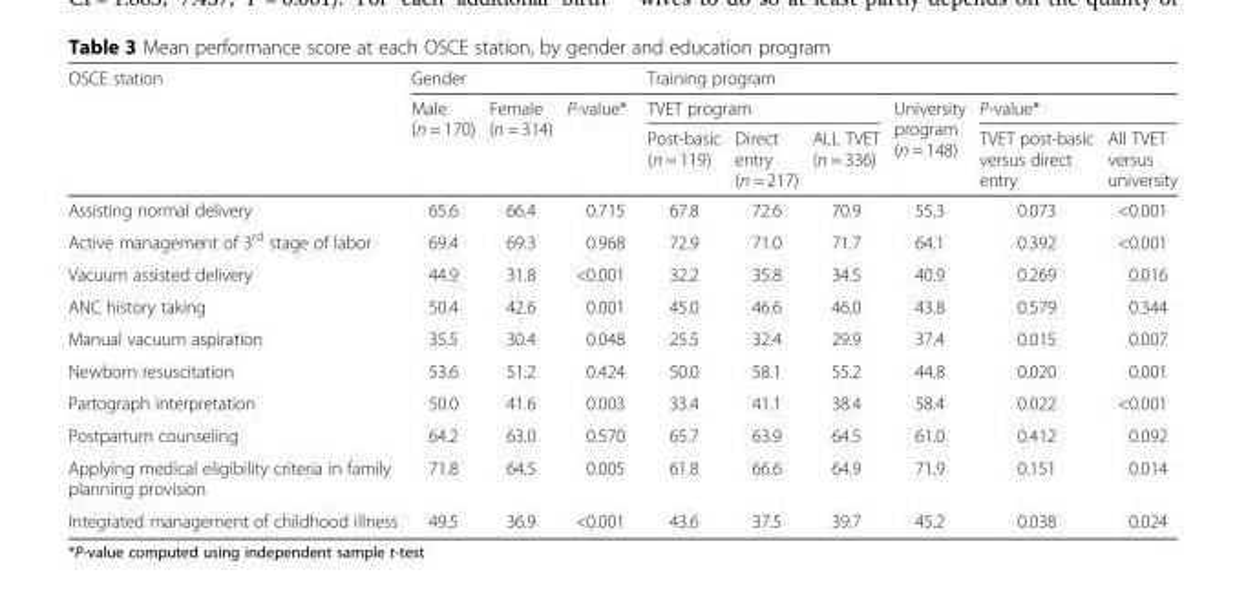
<table><thead><tr><td rowspan="3">OSCE station</td><td colspan="3">Gender</td><td colspan="6">Training program</td></tr><tr><td rowspan="2">Male (n = 170)</td><td rowspan="2">Female (n = 314)</td><td rowspan="2">P-value*</td><td colspan="3">TVET program</td><td rowspan="2">University program (n = 148)</td><td colspan="2">P-value*</td></tr><tr><td>Post-basic (n = 119)</td><td>Direct entry (n = 217)</td><td>ALL TVET (n = 336)</td><td>TVET post-basic versus direct entry</td><td>All TVET versus university</td></tr></thead><tbody><tr><td>Assisting normal delivery</td><td>65.6</td><td>66.4</td><td>0.715</td><td>67.8</td><td>72.6</td><td>70.9</td><td>55.3</td><td>0.073</td><td>&lt;0.001</td></tr><tr><td>Active management of 3<sup>rd</sup> stage of labor</td><td>69.4</td><td>69.3</td><td>0.968</td><td>72.9</td><td>71.0</td><td>71.7</td><td>64.1</td><td>0.392</td><td>&lt;0.001</td></tr><tr><td>Vacuum assisted delivery</td><td>44.9</td><td>31.8</td><td>&lt;0.001</td><td>32.2</td><td>35.8</td><td>34.5</td><td>40.9</td><td>0.269</td><td>0.016</td></tr><tr><td>ANC history taking</td><td>50.4</td><td>42.6</td><td>0.001</td><td>45.0</td><td>46.6</td><td>46.0</td><td>43.8</td><td>0.579</td><td>0.344</td></tr><tr><td>Manual vacuum aspiration</td><td>35.5</td><td>30.4</td><td>0.048</td><td>25.5</td><td>32.4</td><td>29.9</td><td>37.4</td><td>0.015</td><td>0.007</td></tr><tr><td>Newborn resuscitation</td><td>53.6</td><td>51.2</td><td>0.424</td><td>50.0</td><td>58.1</td><td>55.2</td><td>44.8</td><td>0.020</td><td>0.001</td></tr><tr><td>Partograph interpretation</td><td>50.0</td><td>41.6</td><td>0.003</td><td>33.4</td><td>41.1</td><td>38.4</td><td>58.4</td><td>0.022</td><td>&lt;0.001</td></tr><tr><td>Postpartum counseling</td><td>64.2</td><td>63.0</td><td>0.570</td><td>65.7</td><td>63.9</td><td>64.5</td><td>61.0</td><td>0.412</td><td>0.092</td></tr><tr><td>Applying medical eligibility criteria in family planning provision</td><td>71.8</td><td>64.5</td><td>0.005</td><td>61.8</td><td>66.6</td><td>64.9</td><td>71.9</td><td>0.151</td><td>0.014</td></tr><tr><td>Integrated management of childhood illness</td><td>49.5</td><td>36.9</td><td>&lt;0.001</td><td>43.6</td><td>37.5</td><td>39.7</td><td>45.2</td><td>0.038</td><td>0.024</td></tr></tbody></table>